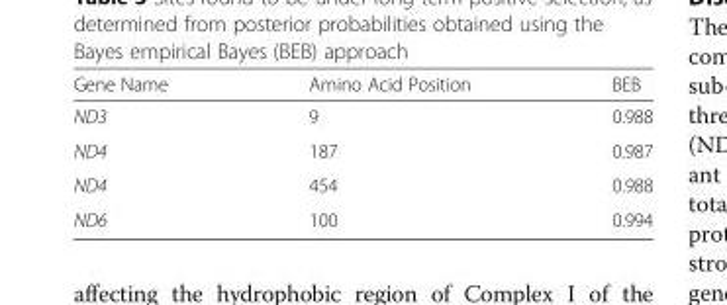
<table><thead><tr><td>Gene Name</td><td>Amino Acid Position</td><td>BEB</td></tr></thead><tbody><tr><td>ND3</td><td>9</td><td>0.988</td></tr><tr><td>ND4</td><td>187</td><td>0.987</td></tr><tr><td>ND4</td><td>454</td><td>0.988</td></tr><tr><td>ND6</td><td>100</td><td>0.994</td></tr></tbody></table>